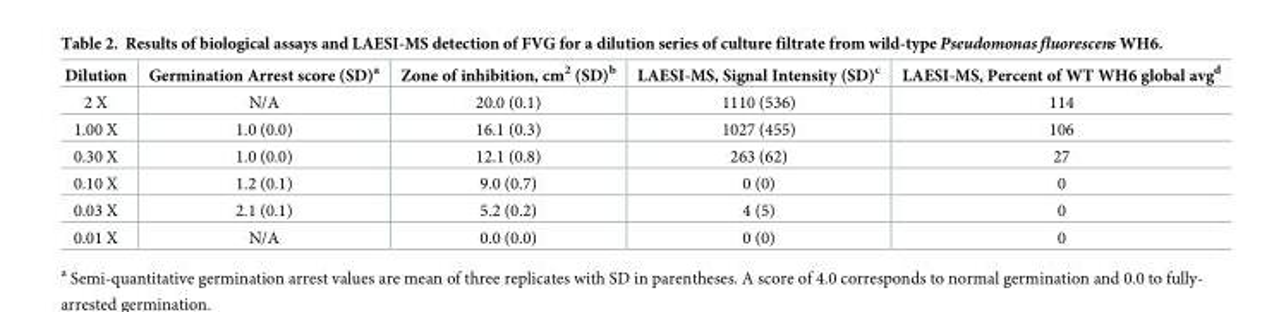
<table><thead><tr><td>Dilution</td><td>Germination Arrest score (SD)<sup>a</sup></td><td>Zone of inhibition, cm<sup>2</sup> (SD)<sup>b</sup></td><td>LAESI-MS, Signal Intensity (SD)<sup>c</sup></td><td>LAESI-MS, Percent of WT WH6 global avg<sup>d</sup></td></tr></thead><tbody><tr><td>2 X</td><td>N/A</td><td>20.0 (0.1)</td><td>1110 (536)</td><td>114</td></tr><tr><td>1.00 X</td><td>1.0 (0.0)</td><td>16.1 (0.3)</td><td>1027 (455)</td><td>106</td></tr><tr><td>0.30 X</td><td>1.0 (0.0)</td><td>12.1 (0.8)</td><td>263 (62)</td><td>27</td></tr><tr><td>0.10 X</td><td>1.2 (0.1)</td><td>9.0 (0.7)</td><td>0 (0)</td><td>0</td></tr><tr><td>0.03 X</td><td>2.1 (0.1)</td><td>5.2 (0.2)</td><td>4 (5)</td><td>0</td></tr><tr><td>0.01 X</td><td>N/A</td><td>0.0 (0.0)</td><td>0 (0)</td><td>0</td></tr></tbody></table>